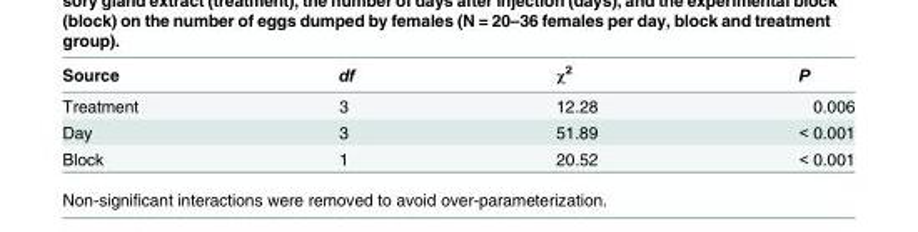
<table><thead><tr><td>Source</td><td>df</td><td>χ<sup>2</sup></td><td>P</td></tr></thead><tbody><tr><td>Treatment</td><td>3</td><td>12.28</td><td>0.006</td></tr><tr><td>Day</td><td>3</td><td>51.89</td><td>&lt; 0.001</td></tr><tr><td>Block</td><td>1</td><td>20.52</td><td>&lt; 0.001</td></tr></tbody></table>